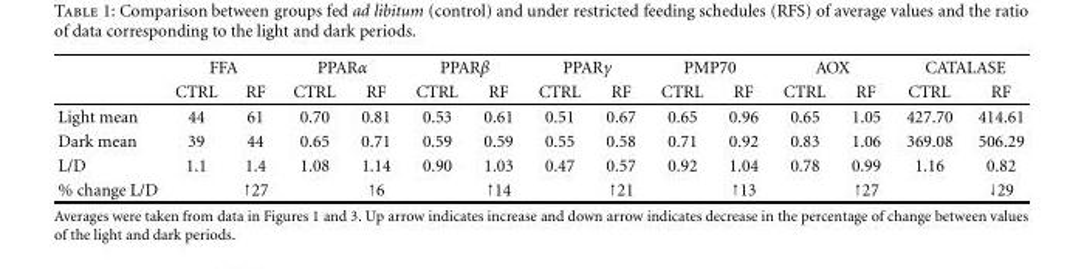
<table><thead><tr><td rowspan="2"></td><td colspan="2">FFA</td><td colspan="2">PPARα</td><td colspan="2">PPARβ</td><td colspan="2">PPARγ</td><td colspan="2">PMP70</td><td colspan="2">AOX</td><td colspan="2">CATALASE</td></tr><tr><td>CTRL</td><td>RF</td><td>CTRL</td><td>RF</td><td>CTRL</td><td>RF</td><td>CTRL</td><td>RF</td><td>CTRL</td><td>RF</td><td>CTRL</td><td>RF</td><td>CTRL</td><td>RF</td></tr></thead><tbody><tr><td>Light mean</td><td>44</td><td>61</td><td>0.70</td><td>0.81</td><td>0.53</td><td>0.61</td><td>0.51</td><td>0.67</td><td>0.65</td><td>0.96</td><td>0.65</td><td>1.05</td><td>427.70</td><td>414.61</td></tr><tr><td>Dark mean</td><td>39</td><td>44</td><td>0.65</td><td>0.71</td><td>0.59</td><td>0.59</td><td>0.55</td><td>0.58</td><td>0.71</td><td>0.92</td><td>0.83</td><td>1.06</td><td>369.08</td><td>506.29</td></tr><tr><td>L/D</td><td>1.1</td><td>1.4</td><td>1.08</td><td>1.14</td><td>0.90</td><td>1.03</td><td>0.47</td><td>0.57</td><td>0.92</td><td>1.04</td><td>0.78</td><td>0.99</td><td>1.16</td><td>0.82</td></tr><tr><td>% change L/D</td><td></td><td>↑27</td><td></td><td>↑6</td><td></td><td>↑14</td><td></td><td>↑21</td><td></td><td>↑13</td><td></td><td>↑27</td><td></td><td>↓29</td></tr></tbody></table>